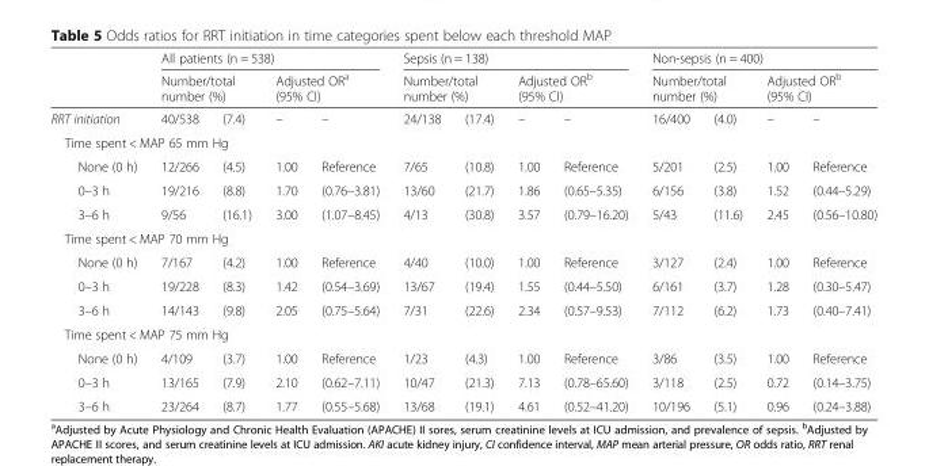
<table><thead><tr><td rowspan="3">RRT initiation</td><td colspan="4">All patients (n = 538)</td><td colspan="4">Sepsis (n = 138)</td><td colspan="4">Non-sepsis (n = 400)</td></tr><tr><td colspan="2">Number/total number (%)</td><td colspan="2">Adjusted OR<sup>a</sup> (95% CI)</td><td colspan="2">Number/total number (%)</td><td colspan="2">Adjusted OR<sup>b</sup> (95% CI)</td><td colspan="2">Number/total number (%)</td><td colspan="2">Adjusted OR<sup>b</sup> (95% CI)</td></tr><tr><td>40/538</td><td>(7.4)</td><td>–</td><td>–</td><td>24/138</td><td>(17.4)</td><td>–</td><td>–</td><td>16/400</td><td>(4.0)</td><td>–</td><td>–</td></tr></thead><tbody><tr><td colspan="13">Time spent &lt; MAP 65 mm Hg</td></tr><tr><td>None (0 h)</td><td>12/266</td><td>(4.5)</td><td>1.00</td><td>Reference</td><td>7/65</td><td>(10.8)</td><td>1.00</td><td>Reference</td><td>5/201</td><td>(2.5)</td><td>1.00</td><td>Reference</td></tr><tr><td>0–3 h</td><td>19/216</td><td>(8.8)</td><td>1.70</td><td>(0.76–3.81)</td><td>13/60</td><td>(21.7)</td><td>1.86</td><td>(0.65–5.35)</td><td>6/156</td><td>(3.8)</td><td>1.52</td><td>(0.44–5.29)</td></tr><tr><td>3–6 h</td><td>9/56</td><td>(16.1)</td><td>3.00</td><td>(1.07–8.45)</td><td>4/13</td><td>(30.8)</td><td>3.57</td><td>(0.79–16.20)</td><td>5/43</td><td>(11.6)</td><td>2.45</td><td>(0.56–10.80)</td></tr><tr><td colspan="13">Time spent &lt; MAP 70 mm Hg</td></tr><tr><td>None (0 h)</td><td>7/167</td><td>(4.2)</td><td>1.00</td><td>Reference</td><td>4/40</td><td>(10.0)</td><td>1.00</td><td>Reference</td><td>3/127</td><td>(2.4)</td><td>1.00</td><td>Reference</td></tr><tr><td>0–3 h</td><td>19/228</td><td>(8.3)</td><td>1.42</td><td>(0.54–3.69)</td><td>13/67</td><td>(19.4)</td><td>1.55</td><td>(0.44–5.50)</td><td>6/161</td><td>(3.7)</td><td>1.28</td><td>(0.30–5.47)</td></tr><tr><td>3–6 h</td><td>14/143</td><td>(9.8)</td><td>2.05</td><td>(0.75–5.64)</td><td>7/31</td><td>(22.6)</td><td>2.34</td><td>(0.57–9.53)</td><td>7/112</td><td>(6.2)</td><td>1.73</td><td>(0.40–7.41)</td></tr><tr><td colspan="13">Time spent &lt; MAP 75 mm Hg</td></tr><tr><td>None (0 h)</td><td>4/109</td><td>(3.7)</td><td>1.00</td><td>Reference</td><td>1/23</td><td>(4.3)</td><td>1.00</td><td>Reference</td><td>3/86</td><td>(3.5)</td><td>1.00</td><td>Reference</td></tr><tr><td>0–3 h</td><td>13/165</td><td>(7.9)</td><td>2.10</td><td>(0.62–7.11)</td><td>10/47</td><td>(21.3)</td><td>7.13</td><td>(0.78–65.60)</td><td>3/118</td><td>(2.5)</td><td>0.72</td><td>(0.14–3.75)</td></tr><tr><td>3–6 h</td><td>23/264</td><td>(8.7)</td><td>1.77</td><td>(0.55–5.68)</td><td>13/68</td><td>(19.1)</td><td>4.61</td><td>(0.52–41.20)</td><td>10/196</td><td>(5.1)</td><td>0.96</td><td>(0.24–3.88)</td></tr></tbody></table>